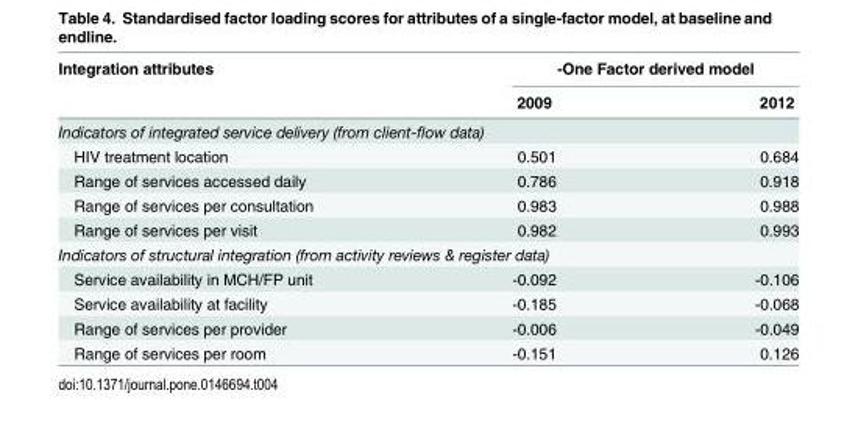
<table><thead><tr><td rowspan="2">Integration attributes</td><td colspan="2">-One Factor derived model</td></tr><tr><td>2009</td><td>2012</td></tr></thead><tbody><tr><td colspan="3">Indicators of integrated service delivery (from client-flow data)</td></tr><tr><td>HIV treatment location</td><td>0.501</td><td>0.684</td></tr><tr><td>Range of services accessed daily</td><td>0.786</td><td>0.918</td></tr><tr><td>Range of services per consultation</td><td>0.983</td><td>0.988</td></tr><tr><td>Range of services per visit</td><td>0.982</td><td>0.993</td></tr><tr><td colspan="3">Indicators of structural integration (from activity reviews &amp; register data)</td></tr><tr><td>Service availability in MCH/FP unit</td><td>-0.092</td><td>-0.106</td></tr><tr><td>Service availability at facility</td><td>-0.185</td><td>-0.068</td></tr><tr><td>Range of services per provider</td><td>-0.006</td><td>-0.049</td></tr><tr><td>Range of services per room</td><td>-0.151</td><td>0.126</td></tr></tbody></table>